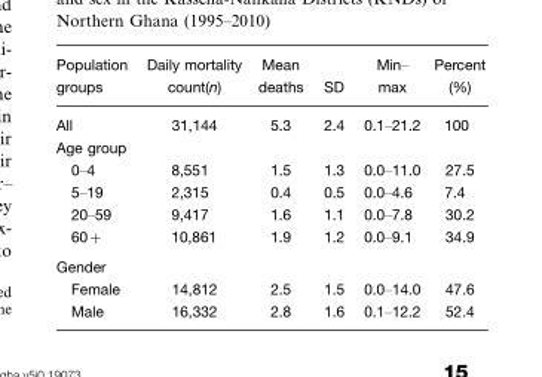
<table><thead><tr><td>Population groups</td><td>Daily mortality count(n)</td><td>Mean deaths</td><td>SD</td><td>Min– max</td><td>Percent (%)</td></tr></thead><tbody><tr><td>All</td><td>31,144</td><td>5.3</td><td>2.4</td><td>0.1–21.2</td><td>100</td></tr><tr><td colspan="6">Age group</td></tr><tr><td>0–4</td><td>8,551</td><td>1.5</td><td>1.3</td><td>0.0–11.0</td><td>27.5</td></tr><tr><td>5–19</td><td>2,315</td><td>0.4</td><td>0.5</td><td>0.0–4.6</td><td>7.4</td></tr><tr><td>20–59</td><td>9,417</td><td>1.6</td><td>1.1</td><td>0.0–7.8</td><td>30.2</td></tr><tr><td>60+</td><td>10,861</td><td>1.9</td><td>1.2</td><td>0.0–9.1</td><td>34.9</td></tr><tr><td colspan="6">Gender</td></tr><tr><td>Female</td><td>14,812</td><td>2.5</td><td>1.5</td><td>0.0–14.0</td><td>47.6</td></tr><tr><td>Male</td><td>16,332</td><td>2.8</td><td>1.6</td><td>0.1–12.2</td><td>52.4</td></tr></tbody></table>